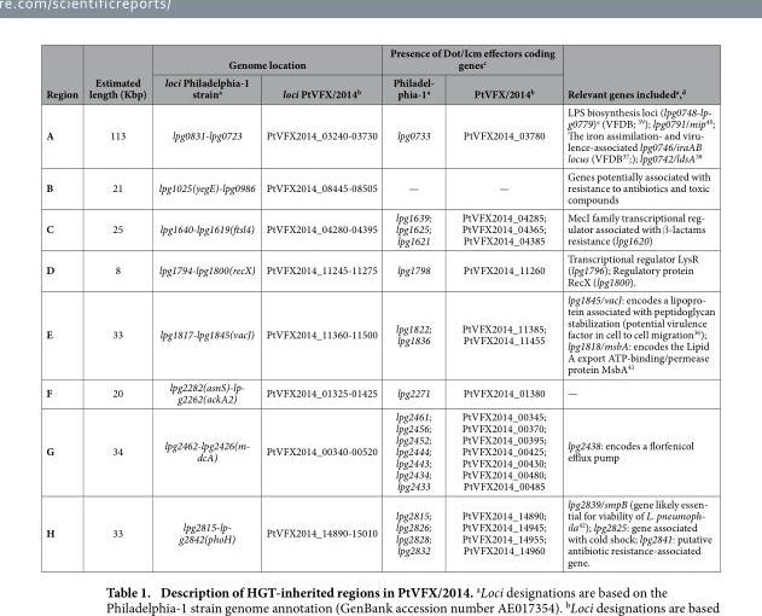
<table><thead><tr><td rowspan="2">Region</td><td rowspan="2">Estimated length (Kbp)</td><td colspan="2">Genome location</td><td colspan="2">Presence of Dot/Icm effectors coding genes<sup>c</sup></td><td rowspan="2">Relevant genes included<sup>a</sup>,<sup>d</sup></td></tr><tr><td>loci Philadelphia-1 strain<sup>a</sup></td><td>loci PtVFX/2014<sup>b</sup></td><td>Philadel- phia-1a</td><td>PtVFX/2014<sup>b</sup></td></tr></thead><tbody><tr><td>A</td><td>113</td><td>lpg0831-lpg0723</td><td>PtVFX2014_03240-03730</td><td>lpg0733</td><td>PtVFX2014_03780</td><td>LPS biosynthesis loci (lpg0748-lp- g0779)e (VFDB; 39); lpg0791/mip40; The iron assimilation- and viru- lence-associated lpg0746/iraAB locus (VFDB37;); lpg0742/ldsA38</td></tr><tr><td>B</td><td>21</td><td>lpg1025(yegE)-lpg0986</td><td>PtVFX2014_08445-08505</td><td>—</td><td>—</td><td>Genes potentially associated with resistance to antibiotics and toxic compounds</td></tr><tr><td>C</td><td>25</td><td>lpg1640-lpg1619(ftsl4)</td><td>PtVFX2014_04280-04395</td><td>lpg1639; lpg1625; lpg1621</td><td>PtVFX2014_04285; PtVFX2014_04365; PtVFX2014_04385</td><td>MecI family transcriptional reg- ulator associated with β -lactams resistance (lpg1620)</td></tr><tr><td>D</td><td>8</td><td>lpg1794-lpg1800(recX)</td><td>PtVFX2014_11245-11275</td><td>lpg1798</td><td>PtVFX2014_11260</td><td>Transcriptional regulator LysR (lpg1796); Regulatory protein RecX (lpg1800).</td></tr><tr><td>E</td><td>33</td><td>lpg1817-lpg1845(vacJ)</td><td>PtVFX2014_11360-11500</td><td>lpg1822; lpg1836</td><td>PtVFX2014_11385; PtVFX2014_11455</td><td>lpg1845/vacJ: encodes a lipopro- tein associated with peptidoglycan stabilization (potential virulence factor in cell to cell migration36); lpg1818/msbA: encodes the Lipid A export ATP-binding/permease protein MsbA41</td></tr><tr><td>F</td><td>20</td><td>lpg2282(asnS)-lp- g2262(ackA2)</td><td>PtVFX2014_01325-01425</td><td>lpg2271</td><td>PtVFX2014_01380</td><td>—</td></tr><tr><td>G</td><td>34</td><td>lpg2462-lpg2426(m- dcA)</td><td>PtVFX2014_00340-00520</td><td>lpg2461; lpg2456; lpg2452; lpg2444; lpg2443; lpg2434; lpg2433</td><td>PtVFX2014_00345; PtVFX2014_00370; PtVFX2014_00395; PtVFX2014_00425; PtVFX2014_00430; PtVFX2014_00480; PtVFX2014_00485</td><td>lpg2438: encodes a florfenicol efflux pump</td></tr><tr><td>H</td><td>33</td><td>lpg2815-lp- g2842(phoH)</td><td>PtVFX2014_14890-15010</td><td>lpg2815; lpg2826; lpg2828; lpg2832</td><td>PtVFX2014_14890; PtVFX2014_14945; PtVFX2014_14955; PtVFX2014_14960</td><td>lpg2839/smpB (gene likely essen- tial for viability of L. pneumoph- ila42); lpg2825: gene associated with cold shock; lpg2841: putative antibiotic resistance-associated gene.</td></tr></tbody></table>